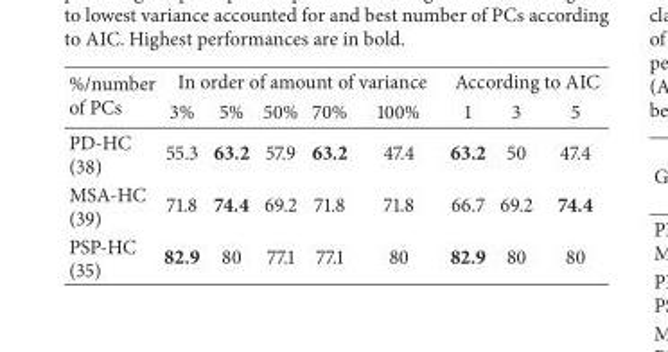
<table><thead><tr><td rowspan="2">%/number of PCs</td><td colspan="5">In order of amount of variance</td><td colspan="3">According to AIC</td></tr><tr><td>3%</td><td>5%</td><td>50%</td><td>70%</td><td>100%</td><td>1</td><td>3</td><td>5</td></tr></thead><tbody><tr><td>PD-HC (38)</td><td>55.3</td><td>63.2</td><td>57.9</td><td>63.2</td><td>47.4</td><td>63.2</td><td>50</td><td>47.4</td></tr><tr><td>MSA-HC (39)</td><td>71.8</td><td>74.4</td><td>69.2</td><td>71.8</td><td>71.8</td><td>66.7</td><td>69.2</td><td>74.4</td></tr><tr><td>PSP-HC (35)</td><td>82.9</td><td>80</td><td>77.1</td><td>77.1</td><td>80</td><td>82.9</td><td>80</td><td>80</td></tr></tbody></table>